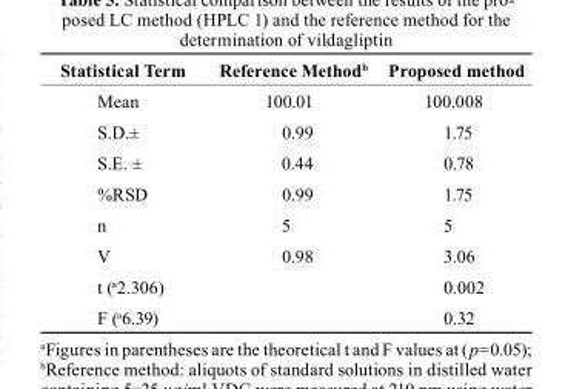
<table><thead><tr><td>statistical term</td><td>Reference Method<sup>b</sup></td><td>Proposed method</td></tr></thead><tbody><tr><td>Mean</td><td>100.01</td><td>100.008</td></tr><tr><td>S.D.±</td><td>0.99</td><td>1.75</td></tr><tr><td>S.E. ±</td><td>0.44</td><td>0.78</td></tr><tr><td>%RSD</td><td>0.99</td><td>1.75</td></tr><tr><td>n</td><td>5</td><td>5</td></tr><tr><td>V</td><td>0.98</td><td>3.06</td></tr><tr><td>t (a2.306)</td><td></td><td>0.002</td></tr><tr><td>F (a6.39)</td><td></td><td>0.32</td></tr></tbody></table>